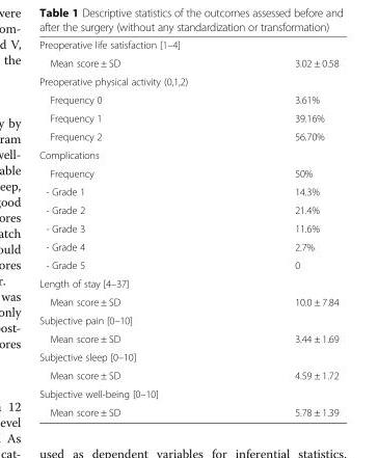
<table><tbody><tr><td colspan="2">Preoperative life satisfaction [1–4]</td></tr><tr><td>Mean score ± SD</td><td>3.02 ± 0.58</td></tr><tr><td colspan="2">Preoperative physical activity (0,1,2)</td></tr><tr><td>Frequency 0</td><td>3.61%</td></tr><tr><td>Frequency 1</td><td>39.16%</td></tr><tr><td>Frequency 2</td><td>56.70%</td></tr><tr><td colspan="2">Complications</td></tr><tr><td>Frequency</td><td>50%</td></tr><tr><td>- Grade 1</td><td>14.3%</td></tr><tr><td>- Grade 2</td><td>21.4%</td></tr><tr><td>- Grade 3</td><td>11.6%</td></tr><tr><td>- Grade 4</td><td>2.7%</td></tr><tr><td>- Grade 5</td><td>0</td></tr><tr><td colspan="2">Length of stay [4–37]</td></tr><tr><td>Mean score ± SD</td><td>10.0 ± 7.84</td></tr><tr><td colspan="2">Subjective pain [0–10]</td></tr><tr><td>Mean score ± SD</td><td>3.44 ± 1.69</td></tr><tr><td colspan="2">Subjective sleep [0–10]</td></tr><tr><td>Mean score ± SD</td><td>4.59 ± 1.72</td></tr><tr><td colspan="2">Subjective well-being [0–10]</td></tr><tr><td>Mean score ± SD</td><td>5.78 ± 1.39</td></tr></tbody></table>